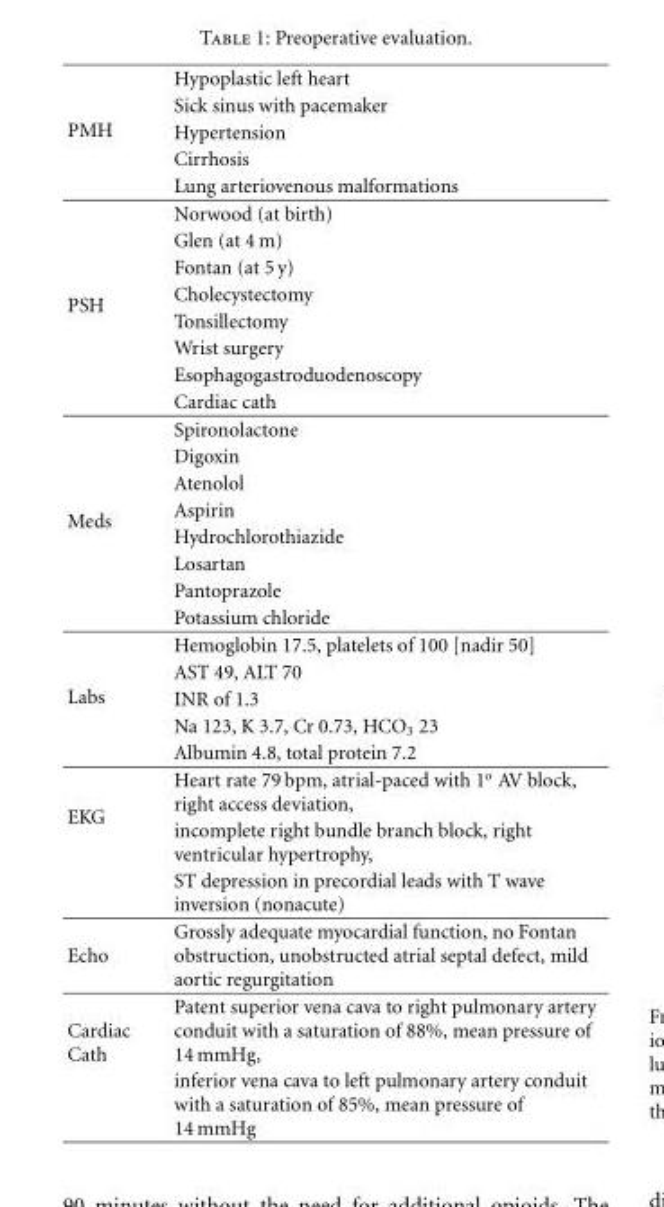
<table><tbody><tr><td rowspan="5">PMH</td><td>Hypoplastic left heart</td></tr><tr><td>Sick sinus with pacemaker</td></tr><tr><td>Hypertension</td></tr><tr><td>Cirrhosis</td></tr><tr><td>Lung arteriovenous malformations</td></tr><tr><td rowspan="8">PSH</td><td>Norwood (at birth)</td></tr><tr><td>Glen (at 4 m)</td></tr><tr><td>Fontan (at 5 y)</td></tr><tr><td>Cholecystectomy</td></tr><tr><td>Tonsillectomy</td></tr><tr><td>Wrist surgery</td></tr><tr><td>Esophagogastroduodenoscopy</td></tr><tr><td>Cardiac cath</td></tr><tr><td rowspan="8">Meds</td><td>Spironolactone</td></tr><tr><td>Digoxin</td></tr><tr><td>Atenolol</td></tr><tr><td>Aspirin</td></tr><tr><td>Hydrochlorothiazide</td></tr><tr><td>Losartan</td></tr><tr><td>Pantoprazole</td></tr><tr><td>Potassium chloride</td></tr><tr><td rowspan="5">Labs</td><td>Hemoglobin 17.5, platelets of 100 [nadir 50]</td></tr><tr><td>AST 49, ALT 70</td></tr><tr><td>INR of 1.3</td></tr><tr><td>Na 123, K 3.7, Cr 0.73, HCO<sub>3</sub> 23</td></tr><tr><td>Albumin 4.8, total protein 7.2</td></tr><tr><td rowspan="3">EKG</td><td>Heart rate 79 bpm, atrial-paced with 1<sup>o</sup> AV block, right access deviation,</td></tr><tr><td>incomplete right bundle branch block, right ventricular hypertrophy,</td></tr><tr><td>ST depression in precordial leads with T wave inversion (nonacute)</td></tr><tr><td>Echo</td><td>Grossly adequate myocardial function, no Fontan obstruction, unobstructed atrial septal defect, mild aortic regurgitation</td></tr><tr><td rowspan="2">Cardiac Cath</td><td>Patent superior vena cava to right pulmonary artery conduit with a saturation of 88%, mean pressure of 14 mmHg,</td></tr><tr><td>inferior vena cava to left pulmonary artery conduit with a saturation of 85%, mean pressure of 14 mmHg</td></tr></tbody></table>